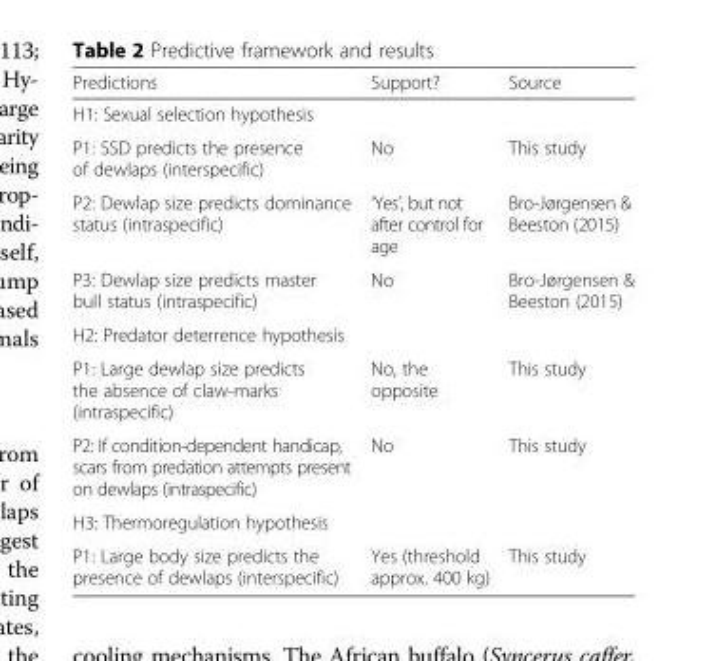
<table><thead><tr><td>Predictions</td><td>Support?</td><td>Source</td></tr></thead><tbody><tr><td colspan="3">H1: Sexual selection hypothesis</td></tr><tr><td>P1: SSD predicts the presence of dewlaps (interspecific)</td><td>No</td><td>This study</td></tr><tr><td>P2: Dewlap size predicts dominance status (intraspecific)</td><td>‘Yes’, but not after control for age</td><td>Bro-Jørgensen &amp; Beeston (2015)</td></tr><tr><td>P3: Dewlap size predicts master bull status (intraspecific)</td><td>No</td><td>Bro-Jørgensen &amp; Beeston (2015)</td></tr><tr><td colspan="3">H2: Predator deterrence hypothesis</td></tr><tr><td>P1: Large dewlap size predicts the absence of claw-marks (intraspecific)</td><td>No, the opposite</td><td>This study</td></tr><tr><td>P2: If condition-dependent handicap, scars from predation attempts present on dewlaps (intraspecific)</td><td>No</td><td>This study</td></tr><tr><td colspan="3">H3: Thermoregulation hypothesis</td></tr><tr><td>P1: Large body size predicts the presence of dewlaps (interspecific)</td><td>Yes (threshold approx. 400 kg)</td><td>This study</td></tr></tbody></table>